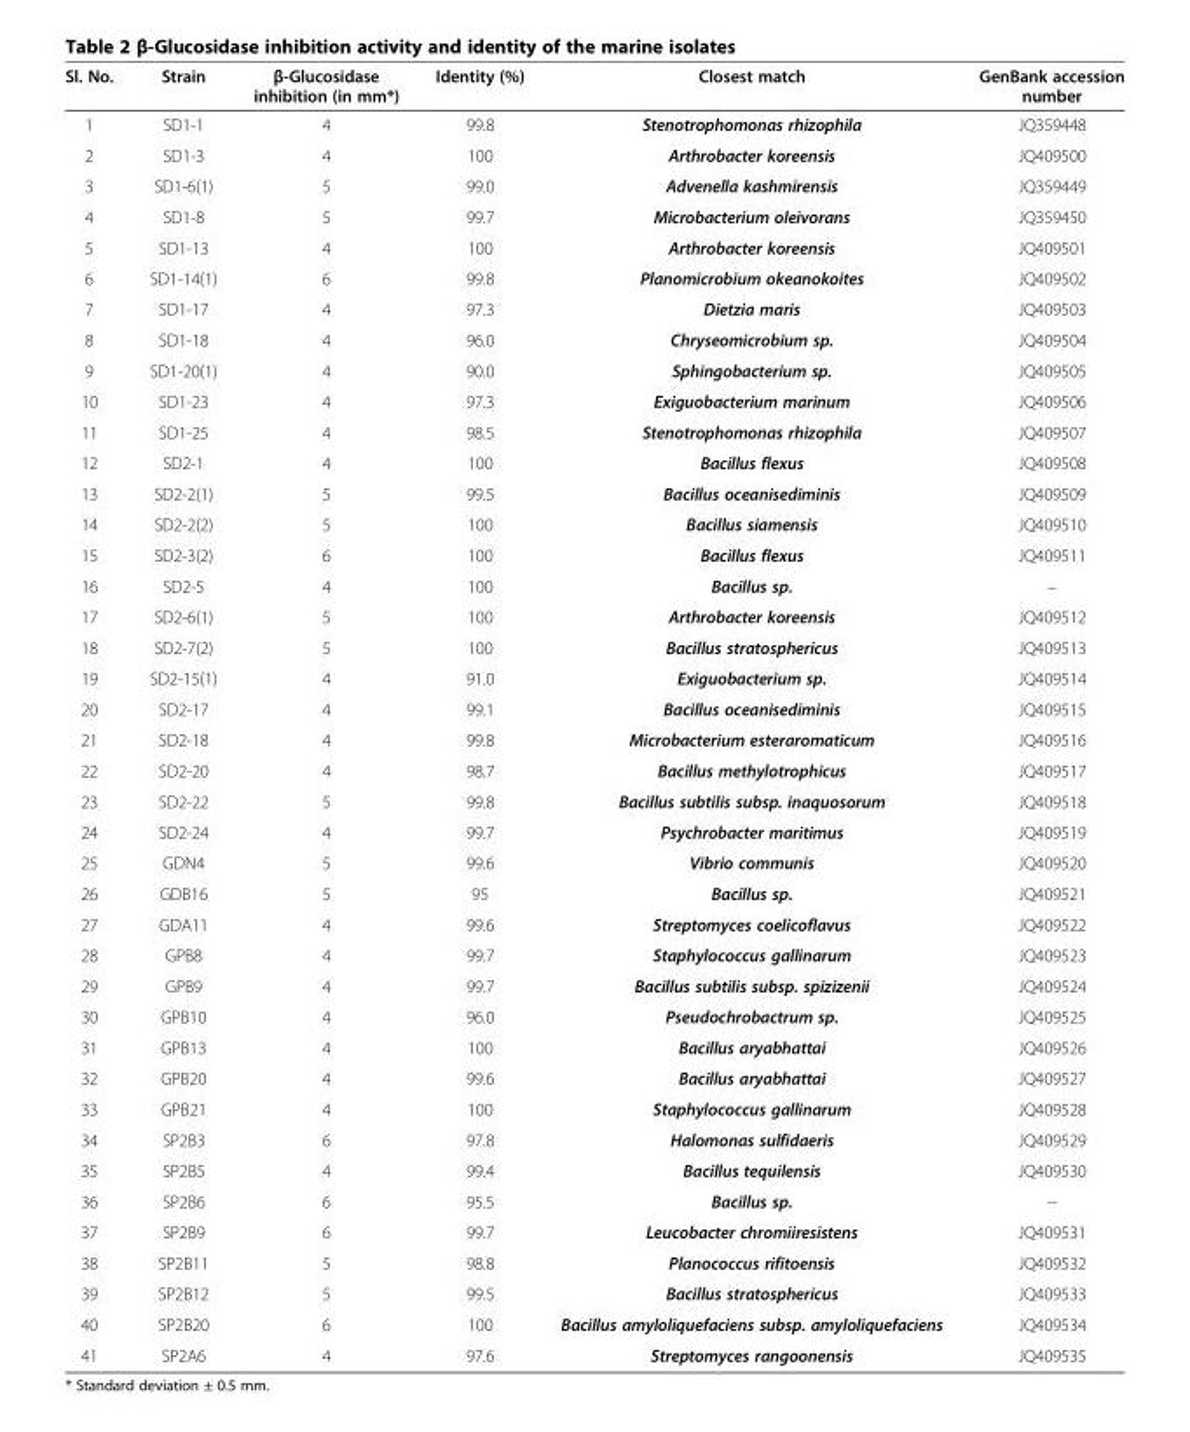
<table><thead><tr><td>Sl. No.</td><td>Strain</td><td>β-Glucosidase inhibition (in mm*)</td><td>Identity (%)</td><td>Closest match</td><td>GenBank accession number</td></tr></thead><tbody><tr><td>1</td><td>SD1-1</td><td>4</td><td>99.8</td><td>Stenotrophomonas rhizophila</td><td>JQ359448</td></tr><tr><td>2</td><td>SD1-3</td><td>4</td><td>100</td><td>Arthrobacter koreensis</td><td>JQ409500</td></tr><tr><td>3</td><td>SD1-6(1)</td><td>5</td><td>99.0</td><td>Advenella kashmirensis</td><td>JQ359449</td></tr><tr><td>4</td><td>SD1-8</td><td>5</td><td>99.7</td><td>Microbacterium oleivorans</td><td>JQ359450</td></tr><tr><td>5</td><td>SD1-13</td><td>4</td><td>100</td><td>Arthrobacter koreensis</td><td>JQ409501</td></tr><tr><td>6</td><td>SD1-14(1)</td><td>6</td><td>99.8</td><td>Planomicrobium okeanokoites</td><td>JQ409502</td></tr><tr><td>7</td><td>SD1-17</td><td>4</td><td>97.3</td><td>Dietzia maris</td><td>JQ409503</td></tr><tr><td>8</td><td>SD1-18</td><td>4</td><td>96.0</td><td>Chryseomicrobium sp.</td><td>JQ409504</td></tr><tr><td>9</td><td>SD1-20(1)</td><td>4</td><td>90.0</td><td>Sphingobacterium sp.</td><td>JQ409505</td></tr><tr><td>10</td><td>SD1-23</td><td>4</td><td>97.3</td><td>Exiguobacterium marinum</td><td>JQ409506</td></tr><tr><td>11</td><td>SD1-25</td><td>4</td><td>98.5</td><td>Stenotrophomonas rhizophila</td><td>JQ409507</td></tr><tr><td>12</td><td>SD2-1</td><td>4</td><td>100</td><td>Bacillus flexus</td><td>JQ409508</td></tr><tr><td>13</td><td>SD2-2(1)</td><td>5</td><td>99.5</td><td>Bacillus oceanisediminis</td><td>JQ409509</td></tr><tr><td>14</td><td>SD2-2(2)</td><td>5</td><td>100</td><td>Bacillus siamensis</td><td>JQ409510</td></tr><tr><td>15</td><td>SD2-3(2)</td><td>6</td><td>100</td><td>Bacillus flexus</td><td>JQ409511</td></tr><tr><td>16</td><td>SD2-5</td><td>4</td><td>100</td><td>Bacillus sp.</td><td>–</td></tr><tr><td>17</td><td>SD2-6(1)</td><td>5</td><td>100</td><td>Arthrobacter koreensis</td><td>JQ409512</td></tr><tr><td>18</td><td>SD2-7(2)</td><td>5</td><td>100</td><td>Bacillus stratosphericus</td><td>JQ409513</td></tr><tr><td>19</td><td>SD2-15(1)</td><td>4</td><td>91.0</td><td>Exiguobacterium sp.</td><td>JQ409514</td></tr><tr><td>20</td><td>SD2-17</td><td>4</td><td>99.1</td><td>Bacillus oceanisediminis</td><td>JQ409515</td></tr><tr><td>21</td><td>SD2-18</td><td>4</td><td>99.8</td><td>Microbacterium esteraromaticum</td><td>JQ409516</td></tr><tr><td>22</td><td>SD2-20</td><td>4</td><td>98.7</td><td>Bacillus methylotrophicus</td><td>JQ409517</td></tr><tr><td>23</td><td>SD2-22</td><td>5</td><td>99.8</td><td>Bacillus subtilis subsp. inaquosorum</td><td>JQ409518</td></tr><tr><td>24</td><td>SD2-24</td><td>4</td><td>99.7</td><td>Psychrobacter maritimus</td><td>JQ409519</td></tr><tr><td>25</td><td>GDN4</td><td>5</td><td>99.6</td><td>Vibrio communis</td><td>JQ409520</td></tr><tr><td>26</td><td>GDB16</td><td>5</td><td>95</td><td>Bacillus sp.</td><td>JQ409521</td></tr><tr><td>27</td><td>GDA11</td><td>4</td><td>99.6</td><td>Streptomyces coelicoflavus</td><td>JQ409522</td></tr><tr><td>28</td><td>GPB8</td><td>4</td><td>99.7</td><td>Staphylococcus gallinarum</td><td>JQ409523</td></tr><tr><td>29</td><td>GPB9</td><td>4</td><td>99.7</td><td>Bacillus subtilis subsp. spizizenii</td><td>JQ409524</td></tr><tr><td>30</td><td>GPB10</td><td>4</td><td>96.0</td><td>Pseudochrobactrum sp.</td><td>JQ409525</td></tr><tr><td>31</td><td>GPB13</td><td>4</td><td>100</td><td>Bacillus aryabhattai</td><td>JQ409526</td></tr><tr><td>32</td><td>GPB20</td><td>4</td><td>99.6</td><td>Bacillus aryabhattai</td><td>JQ409527</td></tr><tr><td>33</td><td>GPB21</td><td>4</td><td>100</td><td>Staphylococcus gallinarum</td><td>JQ409528</td></tr><tr><td>34</td><td>SP2B3</td><td>6</td><td>97.8</td><td>Halomonas sulfidaeris</td><td>JQ409529</td></tr><tr><td>35</td><td>SP2B5</td><td>4</td><td>99.4</td><td>Bacillus tequilensis</td><td>JQ409530</td></tr><tr><td>36</td><td>SP2B6</td><td>6</td><td>95.5</td><td>Bacillus sp.</td><td>--</td></tr><tr><td>37</td><td>SP2B9</td><td>6</td><td>99.7</td><td>Leucobacter chromiiresistens</td><td>JQ409531</td></tr><tr><td>38</td><td>SP2B11</td><td>5</td><td>98.8</td><td>Planococcus rifitoensis</td><td>JQ409532</td></tr><tr><td>39</td><td>SP2B12</td><td>5</td><td>99.5</td><td>Bacillus stratosphericus</td><td>JQ409533</td></tr><tr><td>40</td><td>SP2B20</td><td>6</td><td>100</td><td>Bacillus amyloliquefaciens subsp. amyloliquefaciens</td><td>JQ409534</td></tr><tr><td>41</td><td>SP2A6</td><td>4</td><td>97.6</td><td>Streptomyces rangoonensis</td><td>JQ409535</td></tr></tbody></table>